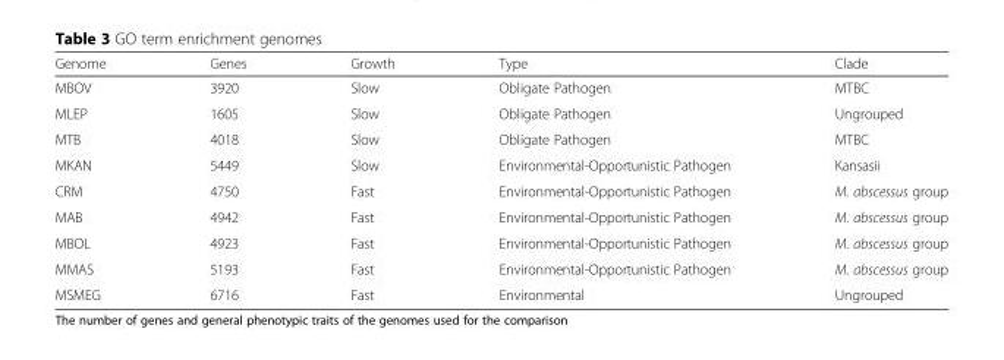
<table><thead><tr><td>Genome</td><td>Genes</td><td>Growth</td><td>Type</td><td>Clade</td></tr></thead><tbody><tr><td>MBOV</td><td>3920</td><td>Slow</td><td>Obligate Pathogen</td><td>MTBC</td></tr><tr><td>MLEP</td><td>1605</td><td>Slow</td><td>Obligate Pathogen</td><td>Ungrouped</td></tr><tr><td>MTB</td><td>4018</td><td>Slow</td><td>Obligate Pathogen</td><td>MTBC</td></tr><tr><td>MKAN</td><td>5449</td><td>Slow</td><td>Environmental-Opportunistic Pathogen</td><td>Kansasii</td></tr><tr><td>CRM</td><td>4750</td><td>Fast</td><td>Environmental-Opportunistic Pathogen</td><td>M. abscessus group</td></tr><tr><td>MAB</td><td>4942</td><td>Fast</td><td>Environmental-Opportunistic Pathogen</td><td>M. abscessus group</td></tr><tr><td>MBOL</td><td>4923</td><td>Fast</td><td>Environmental-Opportunistic Pathogen</td><td>M. abscessus group</td></tr><tr><td>MMAS</td><td>5193</td><td>Fast</td><td>Environmental-Opportunistic Pathogen</td><td>M. abscessus group</td></tr><tr><td>MSMEG</td><td>6716</td><td>Fast</td><td>Environmental</td><td>Ungrouped</td></tr></tbody></table>